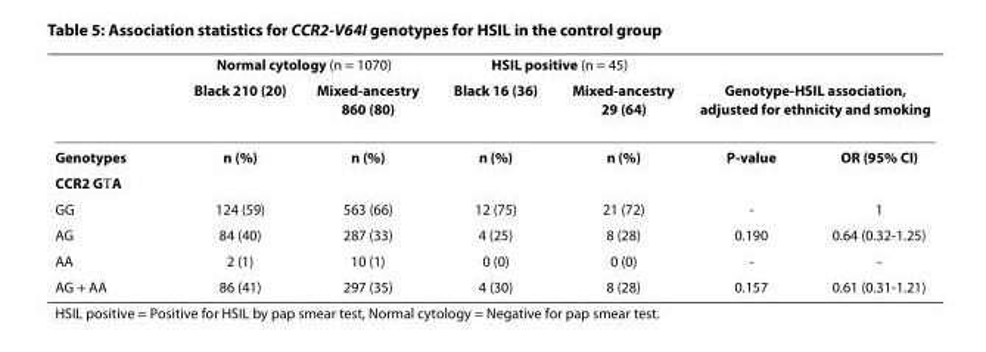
<table><thead><tr><td rowspan="2"></td><td colspan="2">Normal cytology (n = 1070)</td><td colspan="2">HSIL positive (n = 45)</td><td></td><td></td></tr><tr><td>Black 210 (20)</td><td>Mixed-ancestry 860 (80)</td><td>Black 16 (36)</td><td>Mixed-ancestry 29 (64)</td><td colspan="2">Genotype-HSIL association, adjusted for ethnicity and smoking</td></tr></thead><tbody><tr><td>Genotypes</td><td>n (%)</td><td>n (%)</td><td>n (%)</td><td>n (%)</td><td>P-value</td><td>OR (95% CI)</td></tr><tr><td colspan="7">CCR2 G→A</td></tr><tr><td>GG</td><td>124 (59)</td><td>563 (66)</td><td>12 (75)</td><td>21 (72)</td><td>-</td><td>1</td></tr><tr><td>AG</td><td>84 (40)</td><td>287 (33)</td><td>4 (25)</td><td>8 (28)</td><td>0.190</td><td>0.64 (0.32-1.25)</td></tr><tr><td>AA</td><td>2 (1)</td><td>10 (1)</td><td>0 (0)</td><td>0 (0)</td><td>-</td><td>-</td></tr><tr><td>AG + AA</td><td>86 (41)</td><td>297 (35)</td><td>4 (30)</td><td>8 (28)</td><td>0.157</td><td>0.61 (0.31-1.21)</td></tr></tbody></table>